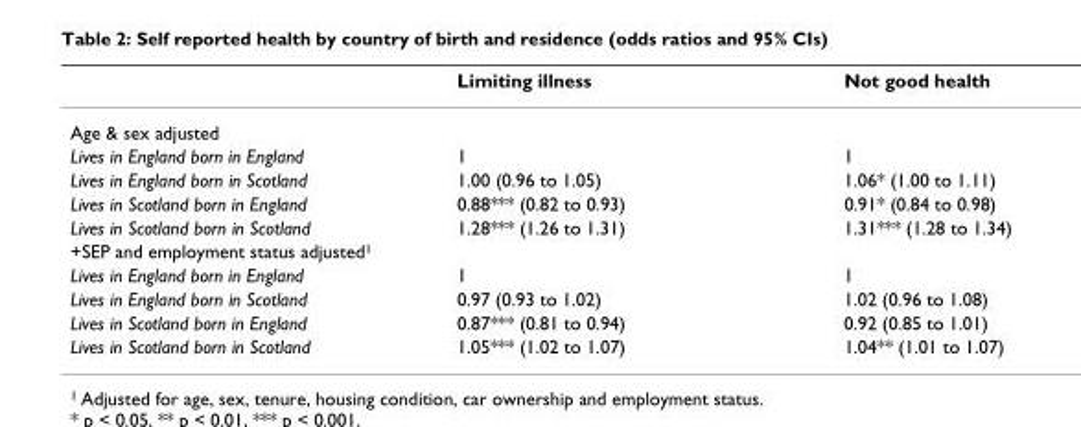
<table><thead><tr><td></td><td>Limiting illness</td><td>Not good health</td></tr></thead><tbody><tr><td colspan="3">Age &amp; sex adjusted</td></tr><tr><td>Lives in England born in England</td><td>1</td><td>1</td></tr><tr><td>Lives in England born in Scotland</td><td>1.00 (0.96 to 1.05)</td><td>1.06* (1.00 to 1.11)</td></tr><tr><td>Lives in Scotland born in England</td><td>0.88*** (0.82 to 0.93)</td><td>0.91* (0.84 to 0.98)</td></tr><tr><td>Lives in Scotland born in Scotland</td><td>1.28*** (1.26 to 1.31)</td><td>1.31*** (1.28 to 1.34)</td></tr><tr><td colspan="3">+SEP and employment status adjusted1</td></tr><tr><td>Lives in England born in England</td><td>1</td><td>1</td></tr><tr><td>Lives in England born in Scotland</td><td>0.97 (0.93 to 1.02)</td><td>1.02 (0.96 to 1.08)</td></tr><tr><td>Lives in Scotland born in England</td><td>0.87*** (0.81 to 0.94)</td><td>0.92 (0.85 to 1.01)</td></tr><tr><td>Lives in Scotland born in Scotland</td><td>1.05*** (1.02 to 1.07)</td><td>1.04** (1.01 to 1.07)</td></tr></tbody></table>